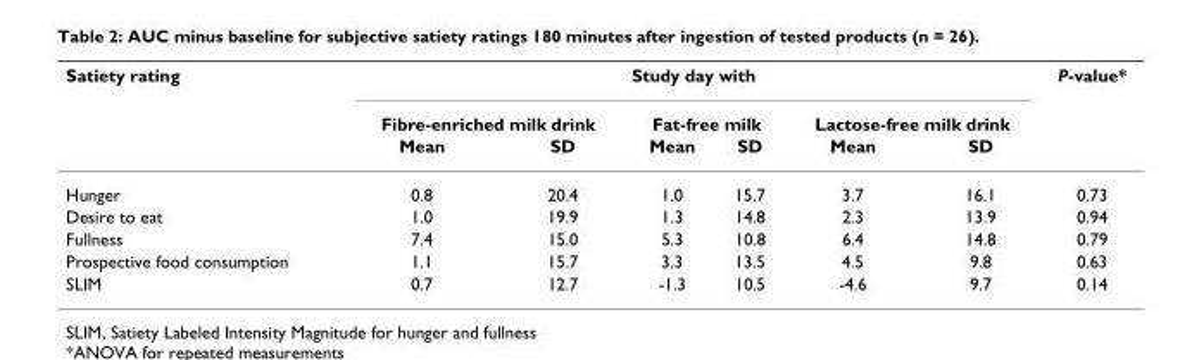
<table><thead><tr><td rowspan="3">Satiety rating</td><td colspan="6">Study day with</td><td rowspan="3">P-value*</td></tr><tr><td colspan="2">Fibre-enriched milk drink</td><td colspan="2">Fat-free milk</td><td colspan="2">Lactose-free milk drink</td></tr><tr><td>Mean</td><td>SD</td><td>Mean</td><td>SD</td><td>Mean</td><td>SD</td></tr></thead><tbody><tr><td>Hunger</td><td>0.8</td><td>20.4</td><td>1.0</td><td>15.7</td><td>3.7</td><td>16.1</td><td>0.73</td></tr><tr><td>Desire to eat</td><td>1.0</td><td>19.9</td><td>1.3</td><td>14.8</td><td>2.3</td><td>13.9</td><td>0.94</td></tr><tr><td>Fullness</td><td>7.4</td><td>15.0</td><td>5.3</td><td>10.8</td><td>6.4</td><td>14.8</td><td>0.79</td></tr><tr><td>Prospective food consumption</td><td>1.1</td><td>15.7</td><td>3.3</td><td>13.5</td><td>4.5</td><td>9.8</td><td>0.63</td></tr><tr><td>SLIM</td><td>0.7</td><td>12.7</td><td>-1.3</td><td>10.5</td><td>-4.6</td><td>9.7</td><td>0.14</td></tr></tbody></table>